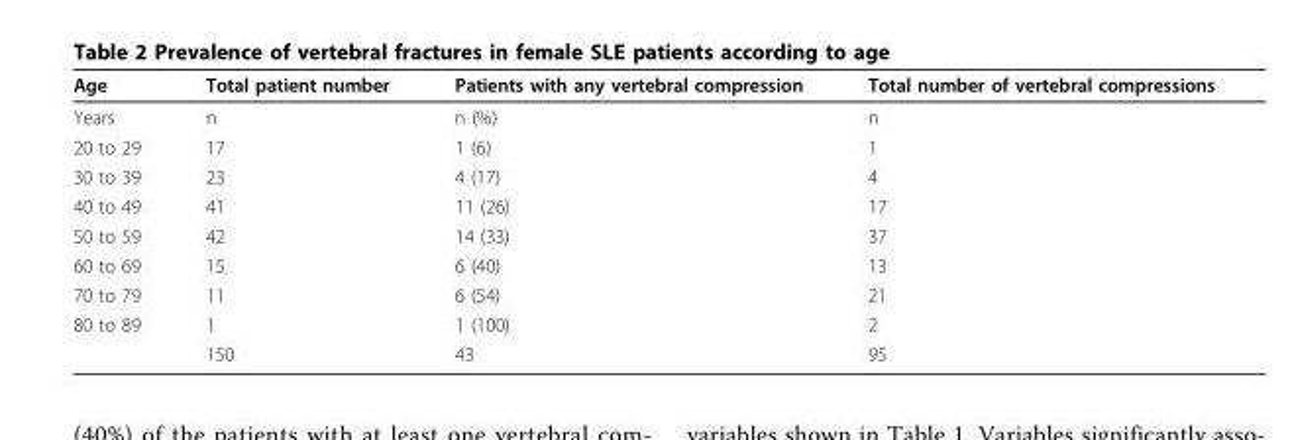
<table><thead><tr><td>Age</td><td>Total patient number</td><td>Patients with any vertebral compression</td><td>Total number of vertebral compressions</td></tr></thead><tbody><tr><td>Years</td><td>n</td><td>n (%)</td><td>n</td></tr><tr><td>20 to 29</td><td>17</td><td>1 (6)</td><td>1</td></tr><tr><td>30 to 39</td><td>23</td><td>4 (17)</td><td>4</td></tr><tr><td>40 to 49</td><td>41</td><td>11 (26)</td><td>17</td></tr><tr><td>50 to 59</td><td>42</td><td>14 (33)</td><td>37</td></tr><tr><td>60 to 69</td><td>15</td><td>6 (40)</td><td>13</td></tr><tr><td>70 to 79</td><td>11</td><td>6 (54)</td><td>21</td></tr><tr><td rowspan="2">80 to 89</td><td>1</td><td>1 (100)</td><td>2</td></tr><tr><td>150</td><td>43</td><td>95</td></tr></tbody></table>